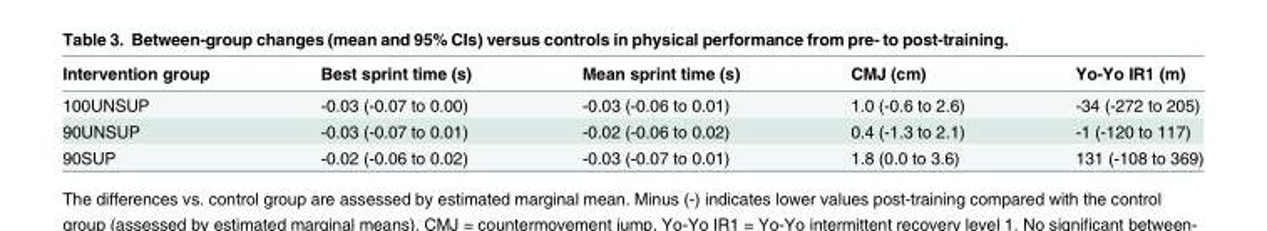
<table><thead><tr><td>Intervention group</td><td>Best sprint time (s)</td><td>Mean sprint time (s)</td><td>CMJ (cm)</td><td>Yo-Yo IR1 (m)</td></tr></thead><tbody><tr><td>100UNSUP</td><td>-0.03 (-0.07 to 0.00)</td><td>-0.03 (-0.06 to 0.01)</td><td>1.0 (-0.6 to 2.6)</td><td>-34 (-272 to 205)</td></tr><tr><td>90UNSUP</td><td>-0.03 (-0.07 to 0.01)</td><td>-0.02 (-0.06 to 0.02)</td><td>0.4 (-1.3 to 2.1)</td><td>-1 (-120 to 117)</td></tr><tr><td>90SUP</td><td>-0.02 (-0.06 to 0.02)</td><td>-0.03 (-0.07 to 0.01)</td><td>1.8 (0.0 to 3.6)</td><td>131 (-108 to 369)</td></tr></tbody></table>